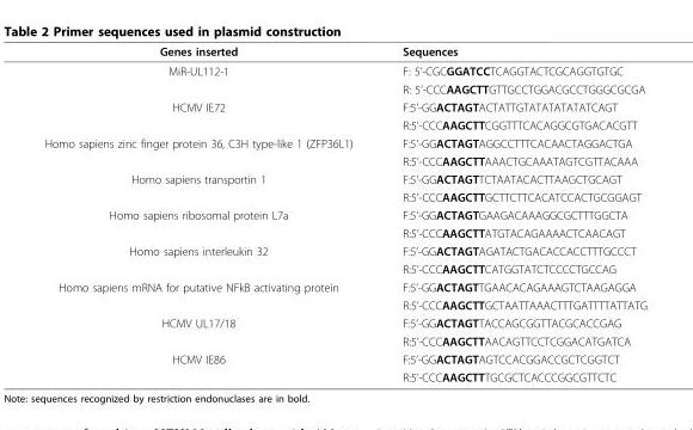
<table><thead><tr><td>Genes inserted</td><td>Sequences</td></tr></thead><tbody><tr><td rowspan="2">MiR-UL112-1</td><td>F: 5’-CGCGGATCCTCAGGTACTCGCAGGTGTGC</td></tr><tr><td>R: 5’-CCCAAGCTTGTTGCCTGGACGCCTGGGCGCGA</td></tr><tr><td rowspan="2">HCMV IE72</td><td>F:5’-GGACTAGTACTATTGTATATATATATCAGT</td></tr><tr><td>R:5’-CCCAAGCTTCGGTTTCACAGGCGTGACACGTT</td></tr><tr><td rowspan="2">Homo sapiens zinc finger protein 36, C3H type-like 1 (ZFP36L1)</td><td>F:5’-GGACTAGTAGGCCTTTCACAACTAGGACTGA</td></tr><tr><td>R:5’-CCCAAGCTTAAACTGCAAATAGTCGTTACAAA</td></tr><tr><td rowspan="2">Homo sapiens transportin 1</td><td>F:5’-GGACTAGTTCTAATACACTTAAGCTGCAGT</td></tr><tr><td>R:5’-CCCAAGCTTGCTTCTTCACATCCACTGCGGAGT</td></tr><tr><td rowspan="2">Homo sapiens ribosomal protein L7a</td><td>F:5’-GGACTAGTGAAGACAAAGGCGCTTTGGCTA</td></tr><tr><td>R:5’-CCCAAGCTTATGTACAGAAAACTCAACAGT</td></tr><tr><td rowspan="2">Homo sapiens interleukin 32</td><td>F:5’-GGACTAGTAGATACTGACACCACCTTTGCCCT</td></tr><tr><td>R:5’-CCCAAGCTTCATGGTATCTCCCCTGCCAG</td></tr><tr><td rowspan="2">Homo sapiens mRNA for putative NFkB activating protein</td><td>F:5’-GGACTAGTTGAACACAGAAAGTCTAAGAGGA</td></tr><tr><td>R:5’-CCCAAGCTTGCTAATTAAACTTTGATTTTATTATG</td></tr><tr><td rowspan="2">HCMV UL17/18</td><td>F:5’-GGACTAGTTACCAGCGGTTACGCACCGAG</td></tr><tr><td>R:5’-CCCAAGCTTAACAGTTCCTCGGACATGATCA</td></tr><tr><td rowspan="2">HCMV IE86</td><td>F:5’-GGACTAGTAGTCCACGGACCGCTCGGTCT</td></tr><tr><td>R:5’-CCCAAGCTTTGCGCTCACCCGGCGTTCTC</td></tr></tbody></table>